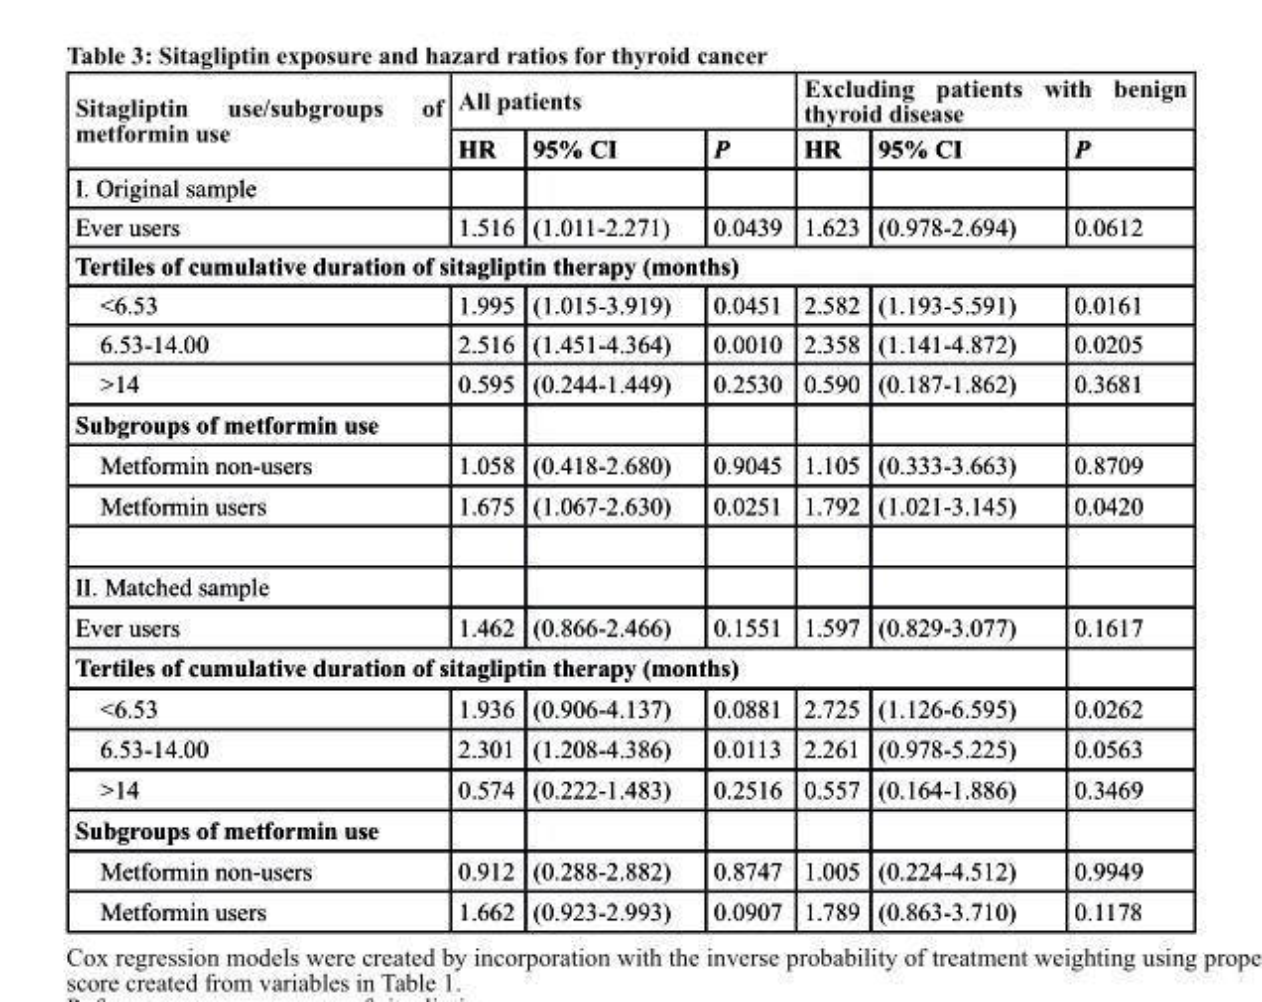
<table><thead><tr><td rowspan="2">sitagliptin use/subgroups of metformin use</td><td colspan="3">All patients</td><td colspan="3">excluding patients with benign thyroid disease</td></tr><tr><td>Hr</td><td>95% cI</td><td>P</td><td>Hr</td><td>95% cI</td><td>P</td></tr></thead><tbody><tr><td colspan="7">I. Original sample</td></tr><tr><td>Ever users</td><td>1.516</td><td>(1.011-2.271)</td><td>0.0439</td><td>1.623</td><td>(0.978-2.694)</td><td>0.0612</td></tr><tr><td colspan="7">tertiles of cumulative duration of sitagliptin therapy (months)</td></tr><tr><td>&lt;6.53</td><td>1.995</td><td>(1.015-3.919)</td><td>0.0451</td><td>2.582</td><td>(1.193-5.591)</td><td>0.0161</td></tr><tr><td>6.53-14.00</td><td>2.516</td><td>(1.451-4.364)</td><td>0.0010</td><td>2.358</td><td>(1.141-4.872)</td><td>0.0205</td></tr><tr><td>&gt;14</td><td>0.595</td><td>(0.244-1.449)</td><td>0.2530</td><td>0.590</td><td>(0.187-1.862)</td><td>0.3681</td></tr><tr><td colspan="7">subgroups of metformin use</td></tr><tr><td>Metformin non-users</td><td>1.058</td><td>(0.418-2.680)</td><td>0.9045</td><td>1.105</td><td>(0.333-3.663)</td><td>0.8709</td></tr><tr><td>Metformin users</td><td>1.675</td><td>(1.067-2.630)</td><td>0.0251</td><td>1.792</td><td>(1.021-3.145)</td><td>0.0420</td></tr><tr><td colspan="7">II. Matched sample</td></tr><tr><td>Ever users</td><td>1.462</td><td>(0.866-2.466)</td><td>0.1551</td><td>1.597</td><td>(0.829-3.077)</td><td>0.1617</td></tr><tr><td colspan="7">tertiles of cumulative duration of sitagliptin therapy (months)</td></tr><tr><td>&lt;6.53</td><td>1.936</td><td>(0.906-4.137)</td><td>0.0881</td><td>2.725</td><td>(1.126-6.595)</td><td>0.0262</td></tr><tr><td>6.53-14.00</td><td>2.301</td><td>(1.208-4.386)</td><td>0.0113</td><td>2.261</td><td>(0.978-5.225)</td><td>0.0563</td></tr><tr><td>&gt;14</td><td>0.574</td><td>(0.222-1.483)</td><td>0.2516</td><td>0.557</td><td>(0.164-1.886)</td><td>0.3469</td></tr><tr><td colspan="7">subgroups of metformin use</td></tr><tr><td>Metformin non-users</td><td>0.912</td><td>(0.288-2.882)</td><td>0.8747</td><td>1.005</td><td>(0.224-4.512)</td><td>0.9949</td></tr><tr><td>Metformin users</td><td>1.662</td><td>(0.923-2.993)</td><td>0.0907</td><td>1.789</td><td>(0.863-3.710)</td><td>0.1178</td></tr></tbody></table>